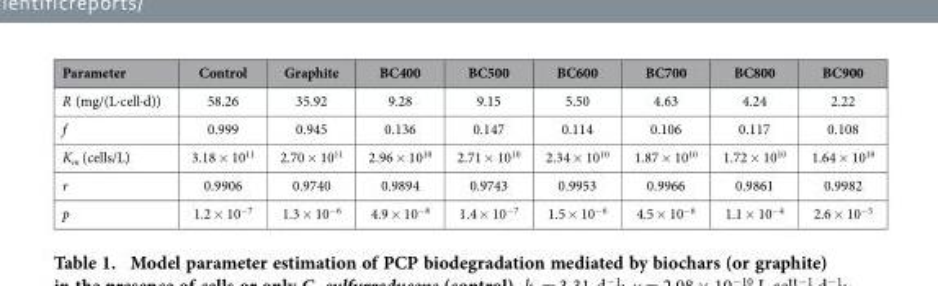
<table><thead><tr><td>Parameter</td><td>Control</td><td>Graphite</td><td>BC400</td><td>BC500</td><td>BC600</td><td>BC700</td><td>BC800</td><td>BC900</td></tr></thead><tbody><tr><td>R (mg/(L·cell·d))</td><td>58.26</td><td>35.92</td><td>9.28</td><td>9.15</td><td>5.50</td><td>4.63</td><td>4.24</td><td>2.22</td></tr><tr><td>f</td><td>0.999</td><td>0.945</td><td>0.136</td><td>0.147</td><td>0.114</td><td>0.106</td><td>0.117</td><td>0.108</td></tr><tr><td>K<sub>m</sub> (cells/L)</td><td>3.18 × 10<sup>11</sup></td><td>2.70 × 10<sup>11</sup></td><td>2.96 × 10<sup>10</sup></td><td>2.71 × 10<sup>10</sup></td><td>2.34 × 10<sup>10</sup></td><td>1.87 × 10<sup>10</sup></td><td>1.72 × 10<sup>10</sup></td><td>1.64 × 10<sup>10</sup></td></tr><tr><td>r</td><td>0.9906</td><td>0.9740</td><td>0.9894</td><td>0.9743</td><td>0.9953</td><td>0.9966</td><td>0.9861</td><td>0.9982</td></tr><tr><td>p</td><td>1.2 × 10<sup>−7</sup></td><td>1.3 × 10<sup>−6</sup></td><td>4.9 × 10<sup>−8</sup></td><td>1.4 × 10<sup>−7</sup></td><td>1.5 × 10<sup>−6</sup></td><td>4.5 × 10<sup>−6</sup></td><td>1.1 × 10<sup>−4</sup></td><td>2.6 × 10<sup>−5</sup></td></tr></tbody></table>